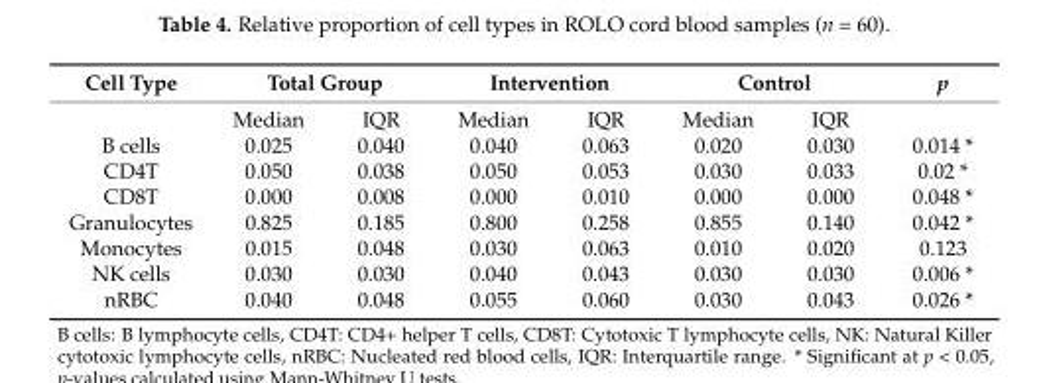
<table><thead><tr><td rowspan="2">Cell Type</td><td colspan="2">Total Group</td><td colspan="2">Intervention</td><td colspan="2">Control</td><td rowspan="2">p</td></tr><tr><td>Median</td><td>IQR</td><td>Median</td><td>IQR</td><td>Median</td><td>IQR</td></tr></thead><tbody><tr><td>B cells</td><td>0.025</td><td>0.040</td><td>0.040</td><td>0.063</td><td>0.020</td><td>0.030</td><td>0.014 *</td></tr><tr><td>CD4T</td><td>0.050</td><td>0.038</td><td>0.050</td><td>0.053</td><td>0.030</td><td>0.033</td><td>0.02 *</td></tr><tr><td>CD8T</td><td>0.000</td><td>0.008</td><td>0.000</td><td>0.010</td><td>0.000</td><td>0.000</td><td>0.048 *</td></tr><tr><td>Granulocytes</td><td>0.825</td><td>0.185</td><td>0.800</td><td>0.258</td><td>0.855</td><td>0.140</td><td>0.042 *</td></tr><tr><td>Monocytes</td><td>0.015</td><td>0.048</td><td>0.030</td><td>0.063</td><td>0.010</td><td>0.020</td><td>0.123</td></tr><tr><td>NK cells</td><td>0.030</td><td>0.030</td><td>0.040</td><td>0.043</td><td>0.030</td><td>0.030</td><td>0.006 *</td></tr><tr><td>nRBC</td><td>0.040</td><td>0.048</td><td>0.055</td><td>0.060</td><td>0.030</td><td>0.043</td><td>0.026 *</td></tr></tbody></table>